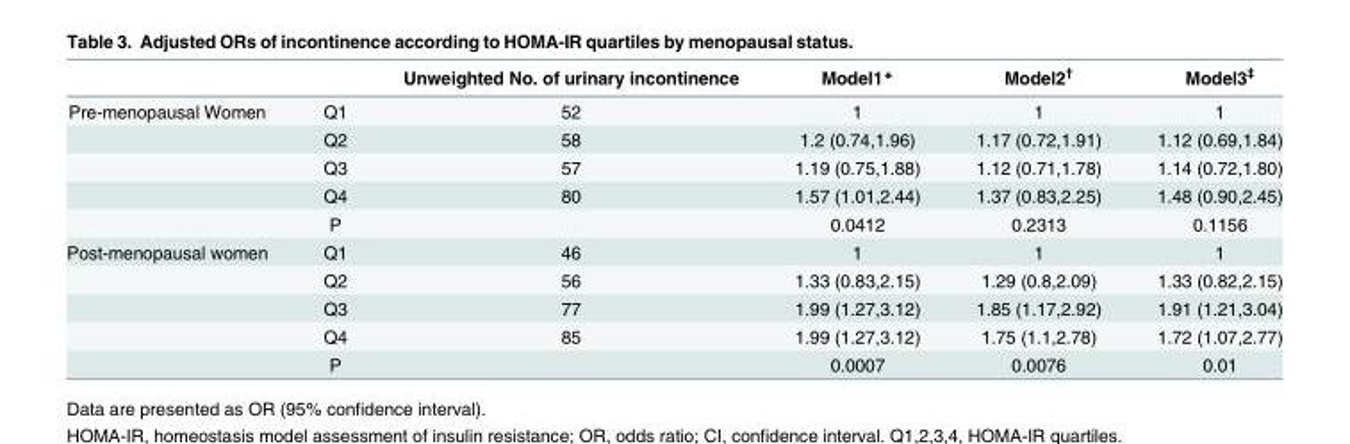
<table><thead><tr><td></td><td></td><td>Unweighted No. of urinary incontinence</td><td>Model1*</td><td>Model2<sup>†</sup></td><td>Model3<sup>‡</sup></td></tr></thead><tbody><tr><td rowspan="5">Pre-menopausal Women</td><td>Q1</td><td>52</td><td>1</td><td>1</td><td>1</td></tr><tr><td>Q2</td><td>58</td><td>1.2 (0.74,1.96)</td><td>1.17 (0.72,1.91)</td><td>1.12 (0.69,1.84)</td></tr><tr><td>Q3</td><td>57</td><td>1.19 (0.75,1.88)</td><td>1.12 (0.71,1.78)</td><td>1.14 (0.72,1.80)</td></tr><tr><td>Q4</td><td>80</td><td>1.57 (1.01,2.44)</td><td>1.37 (0.83,2.25)</td><td>1.48 (0.90,2.45)</td></tr><tr><td>P</td><td></td><td>0.0412</td><td>0.2313</td><td>0.1156</td></tr><tr><td rowspan="5">Post-menopausal women</td><td>Q1</td><td>46</td><td>1</td><td>1</td><td>1</td></tr><tr><td>Q2</td><td>56</td><td>1.33 (0.83,2.15)</td><td>1.29 (0.8,2.09)</td><td>1.33 (0.82,2.15)</td></tr><tr><td>Q3</td><td>77</td><td>1.99 (1.27,3.12)</td><td>1.85 (1.17,2.92)</td><td>1.91 (1.21,3.04)</td></tr><tr><td>Q4</td><td>85</td><td>1.99 (1.27,3.12)</td><td>1.75 (1.1,2.78)</td><td>1.72 (1.07,2.77)</td></tr><tr><td>P</td><td></td><td>0.0007</td><td>0.0076</td><td>0.01</td></tr></tbody></table>